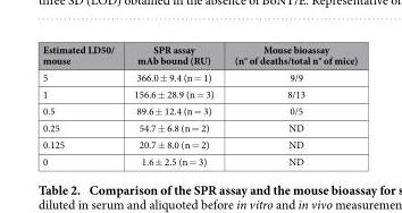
<table><thead><tr><td>Estimated LD50/ mouse</td><td>SPR assay mAb bound (RU)</td><td>Mouse bioassay (n° of deaths/total n° of mice)</td></tr></thead><tbody><tr><td>5</td><td>366.0 ± 9.4 (n = 1)</td><td>9/9</td></tr><tr><td>1</td><td>156.6 ± 28.9 (n = 3)</td><td>8/13</td></tr><tr><td>0.5</td><td>89.6 ± 12.4 (n = 3)</td><td>0/5</td></tr><tr><td>0.25</td><td>54.7 ± 6.8 (n = 2)</td><td>ND</td></tr><tr><td>0.125</td><td>20.7 ± 8.0 (n = 2)</td><td>ND</td></tr><tr><td>0</td><td>1.6 ± 2.5 (n = 3)</td><td>ND</td></tr></tbody></table>